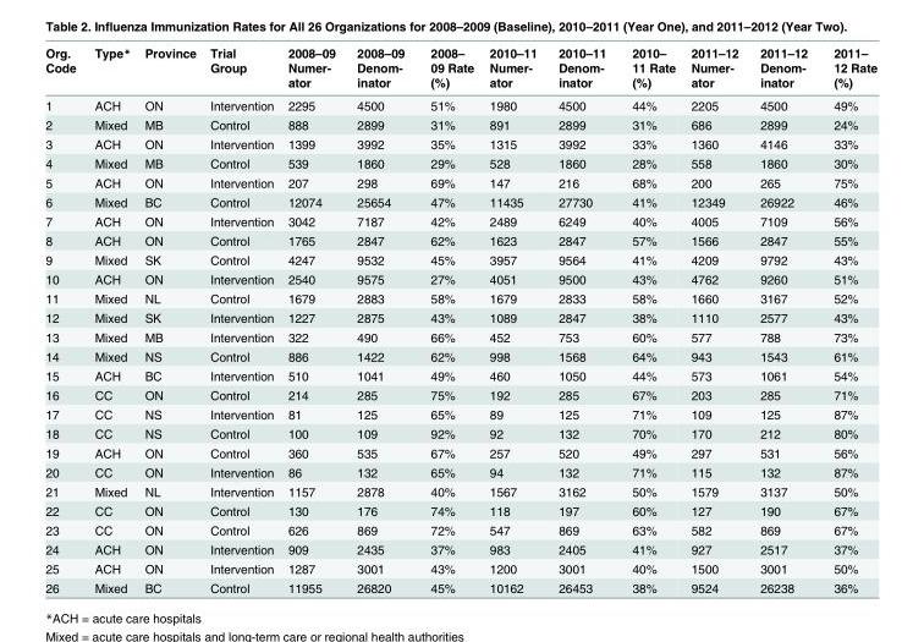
<table><thead><tr><td>Org. Code</td><td>Type*</td><td>Province</td><td>Trial Group</td><td>2008–09 Numer- ator</td><td>2008–09 Denom- inator</td><td>2008– 09 Rate (%)</td><td>2010–11 Numer- ator</td><td>2010–11 Denom- inator</td><td>2010– 11 Rate (%)</td><td>2011–12 Numer- ator</td><td>2011–12 Denom- inator</td><td>2011– 12 Rate (%)</td></tr></thead><tbody><tr><td>1</td><td>ACH</td><td>ON</td><td>Intervention</td><td>2295</td><td>4500</td><td>51%</td><td>1980</td><td>4500</td><td>44%</td><td>2205</td><td>4500</td><td>49%</td></tr><tr><td>2</td><td>Mixed</td><td>MB</td><td>Control</td><td>888</td><td>2899</td><td>31%</td><td>891</td><td>2899</td><td>31%</td><td>686</td><td>2899</td><td>24%</td></tr><tr><td>3</td><td>ACH</td><td>ON</td><td>Intervention</td><td>1399</td><td>3992</td><td>35%</td><td>1315</td><td>3992</td><td>33%</td><td>1360</td><td>4146</td><td>33%</td></tr><tr><td>4</td><td>Mixed</td><td>MB</td><td>Control</td><td>539</td><td>1860</td><td>29%</td><td>528</td><td>1860</td><td>28%</td><td>558</td><td>1860</td><td>30%</td></tr><tr><td>5</td><td>ACH</td><td>ON</td><td>Intervention</td><td>207</td><td>298</td><td>69%</td><td>147</td><td>216</td><td>68%</td><td>200</td><td>265</td><td>75%</td></tr><tr><td>6</td><td>Mixed</td><td>BC</td><td>Control</td><td>12074</td><td>25654</td><td>47%</td><td>11435</td><td>27730</td><td>41%</td><td>12349</td><td>26922</td><td>46%</td></tr><tr><td>7</td><td>ACH</td><td>ON</td><td>Intervention</td><td>3042</td><td>7187</td><td>42%</td><td>2489</td><td>6249</td><td>40%</td><td>4005</td><td>7109</td><td>56%</td></tr><tr><td>8</td><td>ACH</td><td>ON</td><td>Control</td><td>1765</td><td>2847</td><td>62%</td><td>1623</td><td>2847</td><td>57%</td><td>1566</td><td>2847</td><td>55%</td></tr><tr><td>9</td><td>Mixed</td><td>SK</td><td>Control</td><td>4247</td><td>9532</td><td>45%</td><td>3957</td><td>9564</td><td>41%</td><td>4209</td><td>9792</td><td>43%</td></tr><tr><td>10</td><td>ACH</td><td>ON</td><td>Intervention</td><td>2540</td><td>9575</td><td>27%</td><td>4051</td><td>9500</td><td>43%</td><td>4762</td><td>9260</td><td>51%</td></tr><tr><td>11</td><td>Mixed</td><td>NL</td><td>Control</td><td>1679</td><td>2883</td><td>58%</td><td>1679</td><td>2833</td><td>58%</td><td>1660</td><td>3167</td><td>52%</td></tr><tr><td>12</td><td>Mixed</td><td>SK</td><td>Intervention</td><td>1227</td><td>2875</td><td>43%</td><td>1089</td><td>2847</td><td>38%</td><td>1110</td><td>2577</td><td>43%</td></tr><tr><td>13</td><td>Mixed</td><td>MB</td><td>Intervention</td><td>322</td><td>490</td><td>66%</td><td>452</td><td>753</td><td>60%</td><td>577</td><td>788</td><td>73%</td></tr><tr><td>14</td><td>Mixed</td><td>NS</td><td>Control</td><td>886</td><td>1422</td><td>62%</td><td>998</td><td>1568</td><td>64%</td><td>943</td><td>1543</td><td>61%</td></tr><tr><td>15</td><td>ACH</td><td>BC</td><td>Intervention</td><td>510</td><td>1041</td><td>49%</td><td>460</td><td>1050</td><td>44%</td><td>573</td><td>1061</td><td>54%</td></tr><tr><td>16</td><td>CC</td><td>ON</td><td>Control</td><td>214</td><td>285</td><td>75%</td><td>192</td><td>285</td><td>67%</td><td>203</td><td>285</td><td>71%</td></tr><tr><td>17</td><td>CC</td><td>NS</td><td>Intervention</td><td>81</td><td>125</td><td>65%</td><td>89</td><td>125</td><td>71%</td><td>109</td><td>125</td><td>87%</td></tr><tr><td>18</td><td>CC</td><td>NS</td><td>Control</td><td>100</td><td>109</td><td>92%</td><td>92</td><td>132</td><td>70%</td><td>170</td><td>212</td><td>80%</td></tr><tr><td>19</td><td>ACH</td><td>ON</td><td>Control</td><td>360</td><td>535</td><td>67%</td><td>257</td><td>520</td><td>49%</td><td>297</td><td>531</td><td>56%</td></tr><tr><td>20</td><td>CC</td><td>ON</td><td>Intervention</td><td>86</td><td>132</td><td>65%</td><td>94</td><td>132</td><td>71%</td><td>115</td><td>132</td><td>87%</td></tr><tr><td>21</td><td>Mixed</td><td>NL</td><td>Intervention</td><td>1157</td><td>2878</td><td>40%</td><td>1567</td><td>3162</td><td>50%</td><td>1579</td><td>3137</td><td>50%</td></tr><tr><td>22</td><td>CC</td><td>ON</td><td>Control</td><td>130</td><td>176</td><td>74%</td><td>118</td><td>197</td><td>60%</td><td>127</td><td>190</td><td>67%</td></tr><tr><td>23</td><td>CC</td><td>ON</td><td>Control</td><td>626</td><td>869</td><td>72%</td><td>547</td><td>869</td><td>63%</td><td>582</td><td>869</td><td>67%</td></tr><tr><td>24</td><td>ACH</td><td>ON</td><td>Intervention</td><td>909</td><td>2435</td><td>37%</td><td>983</td><td>2405</td><td>41%</td><td>927</td><td>2517</td><td>37%</td></tr><tr><td>25</td><td>ACH</td><td>ON</td><td>Intervention</td><td>1287</td><td>3001</td><td>43%</td><td>1200</td><td>3001</td><td>40%</td><td>1500</td><td>3001</td><td>50%</td></tr><tr><td>26</td><td>Mixed</td><td>BC</td><td>Control</td><td>11955</td><td>26820</td><td>45%</td><td>10162</td><td>26453</td><td>38%</td><td>9524</td><td>26238</td><td>36%</td></tr></tbody></table>